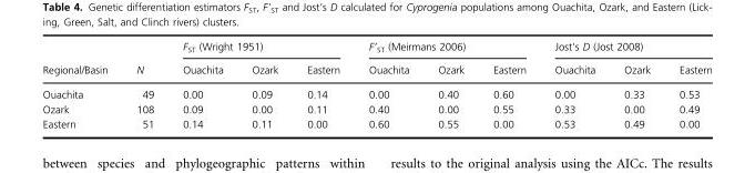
<table><thead><tr><td rowspan="2">Regional/Basin</td><td rowspan="2">N</td><td colspan="3">F<sub>ST</sub> (Wright 1951)</td><td colspan="3">F’<sub>ST</sub> (Meirmans 2006)</td><td colspan="3">Jost’s D (Jost 2008)</td></tr><tr><td>Ouachita</td><td>Ozark</td><td>Eastern</td><td>Ouachita</td><td>Ozark</td><td>Eastern</td><td>Ouachita</td><td>Ozark</td><td>Eastern</td></tr></thead><tbody><tr><td>Ouachita</td><td>49</td><td>0.00</td><td>0.09</td><td>0.14</td><td>0.00</td><td>0.40</td><td>0.60</td><td>0.00</td><td>0.33</td><td>0.53</td></tr><tr><td>Ozark</td><td>108</td><td>0.09</td><td>0.00</td><td>0.11</td><td>0.40</td><td>0.00</td><td>0.55</td><td>0.33</td><td>0.00</td><td>0.49</td></tr><tr><td>Eastern</td><td>51</td><td>0.14</td><td>0.11</td><td>0.00</td><td>0.60</td><td>0.55</td><td>0.00</td><td>0.53</td><td>0.49</td><td>0.00</td></tr></tbody></table>